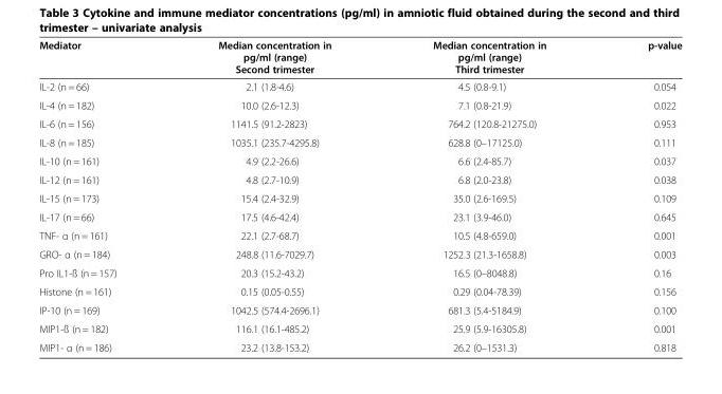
<table><thead><tr><td>Mediator</td><td>Median concentration in pg/ml (range) Second trimester</td><td>Median concentration in pg/ml (range) Third trimester</td><td>p-value</td></tr></thead><tbody><tr><td>IL-2 (n = 66)</td><td>2.1 (1.8-4.6)</td><td>4.5 (0.8-9.1)</td><td>0.054</td></tr><tr><td>IL-4 (n = 182)</td><td>10.0 (2.6-12.3)</td><td>7.1 (0.8-21.9)</td><td>0.022</td></tr><tr><td>IL-6 (n = 156)</td><td>1141.5 (91.2-2823)</td><td>764.2 (120.8-21275.0)</td><td>0.953</td></tr><tr><td>IL-8 (n = 185)</td><td>1035.1 (235.7-4295.8)</td><td>628.8 (0–17125.0)</td><td>0.111</td></tr><tr><td>IL-10 (n = 161)</td><td>4.9 (2.2-26.6)</td><td>6.6 (2.4-85.7)</td><td>0.037</td></tr><tr><td>IL-12 (n = 161)</td><td>4.8 (2.7-10.9)</td><td>6.8 (2.0-23.8)</td><td>0.038</td></tr><tr><td>IL-15 (n = 173)</td><td>15.4 (2.4-32.9)</td><td>35.0 (2.6-169.5)</td><td>0.109</td></tr><tr><td>IL-17 (n = 66)</td><td>17.5 (4.6-42.4)</td><td>23.1 (3.9-46.0)</td><td>0.645</td></tr><tr><td>TNF- α (n = 161)</td><td>22.1 (2.7-68.7)</td><td>10.5 (4.8-659.0)</td><td>0.001</td></tr><tr><td>GRO- α (n = 184)</td><td>248.8 (11.6-7029.7)</td><td>1252.3 (21.3-1658.8)</td><td>0.003</td></tr><tr><td>Pro IL1-ß (n = 157)</td><td>20.3 (15.2-43.2)</td><td>16.5 (0–8048.8)</td><td>0.16</td></tr><tr><td>Histone (n = 161)</td><td>0.15 (0.05-0.55)</td><td>0.29 (0.04-78.39)</td><td>0.156</td></tr><tr><td>IP-10 (n = 169)</td><td>1042.5 (574.4-2696.1)</td><td>681.3 (5.4-5184.9)</td><td>0.100</td></tr><tr><td>MIP1-ß (n = 182)</td><td>116.1 (16.1-485.2)</td><td>25.9 (5.9-16305.8)</td><td>0.001</td></tr><tr><td>MIP1- α (n = 186)</td><td>23.2 (13.8-153.2)</td><td>26.2 (0–1531.3)</td><td>0.818</td></tr></tbody></table>